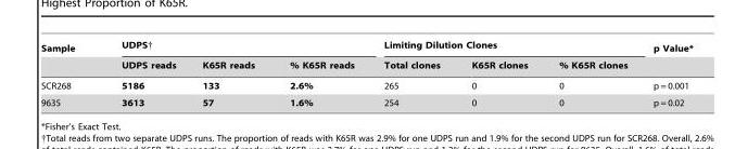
<table><thead><tr><td rowspan="2">Sample</td><td colspan="3">UDPS†</td><td colspan="3">Limiting Dilution Clones</td><td rowspan="2">p Value*</td></tr><tr><td>UDPS reads</td><td>K65R reads</td><td>% K65R reads</td><td>Total clones</td><td>K65R clones</td><td>% K65R clones</td></tr></thead><tbody><tr><td>SCR268</td><td>5186</td><td>133</td><td>2.6%</td><td>265</td><td>0</td><td>0</td><td>p = 0.001</td></tr><tr><td>9635</td><td>3613</td><td>57</td><td>1.6%</td><td>254</td><td>0</td><td>0</td><td>p = 0.02</td></tr></tbody></table>